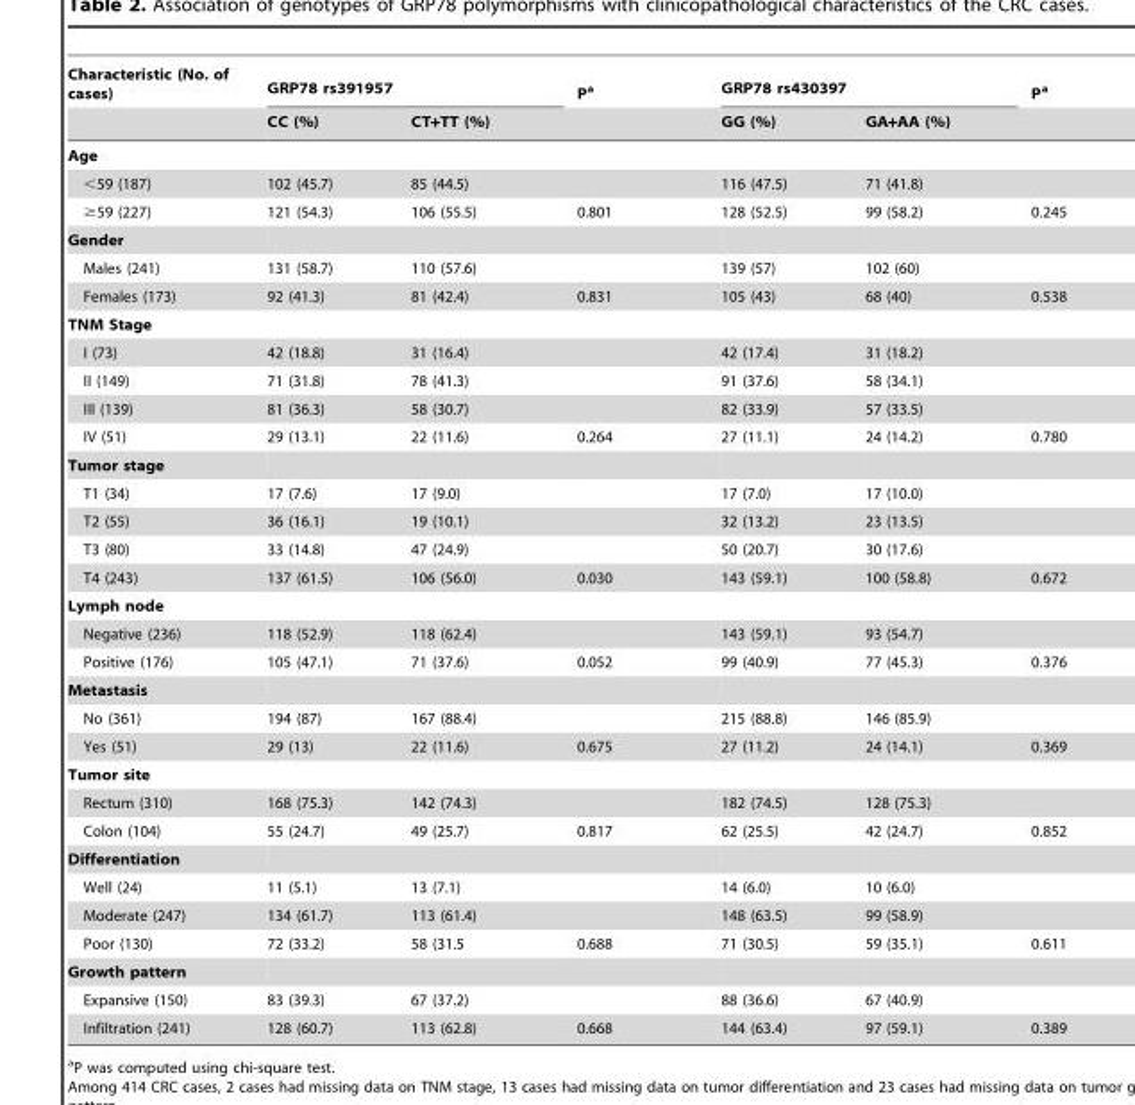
<table><thead><tr><td rowspan="2">Characteristic (No. of cases)</td><td colspan="2">GRP78 rs391957</td><td rowspan="2">P<sup>a</sup></td><td colspan="2">GRP78 rs430397</td><td rowspan="2">P<sup>a</sup></td></tr><tr><td>CC (%)</td><td>CT+TT (%)</td><td>GG (%)</td><td>GA+AA (%)</td></tr></thead><tbody><tr><td colspan="7">Age</td></tr><tr><td>&lt;59 (187)</td><td>102 (45.7)</td><td>85 (44.5)</td><td></td><td>116 (47.5)</td><td>71 (41.8)</td><td></td></tr><tr><td>≥59 (227)</td><td>121 (54.3)</td><td>106 (55.5)</td><td>0.801</td><td>128 (52.5)</td><td>99 (58.2)</td><td>0.245</td></tr><tr><td colspan="7">Gender</td></tr><tr><td>Males (241)</td><td>131 (58.7)</td><td>110 (57.6)</td><td></td><td>139 (57)</td><td>102 (60)</td><td></td></tr><tr><td>Females (173)</td><td>92 (41.3)</td><td>81 (42.4)</td><td>0.831</td><td>105 (43)</td><td>68 (40)</td><td>0.538</td></tr><tr><td colspan="7">TNM Stage</td></tr><tr><td>I (73)</td><td>42 (18.8)</td><td>31 (16.4)</td><td></td><td>42 (17.4)</td><td>31 (18.2)</td><td></td></tr><tr><td>II (149)</td><td>71 (31.8)</td><td>78 (41.3)</td><td></td><td>91 (37.6)</td><td>58 (34.1)</td><td></td></tr><tr><td>III (139)</td><td>81 (36.3)</td><td>58 (30.7)</td><td></td><td>82 (33.9)</td><td>57 (33.5)</td><td></td></tr><tr><td>IV (51)</td><td>29 (13.1)</td><td>22 (11.6)</td><td>0.264</td><td>27 (11.1)</td><td>24 (14.2)</td><td>0.780</td></tr><tr><td colspan="7">Tumor stage</td></tr><tr><td>T1 (34)</td><td>17 (7.6)</td><td>17 (9.0)</td><td></td><td>17 (7.0)</td><td>17 (10.0)</td><td></td></tr><tr><td>T2 (55)</td><td>36 (16.1)</td><td>19 (10.1)</td><td></td><td>32 (13.2)</td><td>23 (13.5)</td><td></td></tr><tr><td>T3 (80)</td><td>33 (14.8)</td><td>47 (24.9)</td><td></td><td>50 (20.7)</td><td>30 (17.6)</td><td></td></tr><tr><td>T4 (243)</td><td>137 (61.5)</td><td>106 (56.0)</td><td>0.030</td><td>143 (59.1)</td><td>100 (58.8)</td><td>0.672</td></tr><tr><td colspan="7">Lymph node</td></tr><tr><td>Negative (236)</td><td>118 (52.9)</td><td>118 (62.4)</td><td></td><td>143 (59.1)</td><td>93 (54.7)</td><td></td></tr><tr><td>Positive (176)</td><td>105 (47.1)</td><td>71 (37.6)</td><td>0.052</td><td>99 (40.9)</td><td>77 (45.3)</td><td>0.376</td></tr><tr><td colspan="7">Metastasis</td></tr><tr><td>No (361)</td><td>194 (87)</td><td>167 (88.4)</td><td></td><td>215 (88.8)</td><td>146 (85.9)</td><td></td></tr><tr><td>Yes (51)</td><td>29 (13)</td><td>22 (11.6)</td><td>0.675</td><td>27 (11.2)</td><td>24 (14.1)</td><td>0.369</td></tr><tr><td colspan="7">Tumor site</td></tr><tr><td>Rectum (310)</td><td>168 (75.3)</td><td>142 (74.3)</td><td></td><td>182 (74.5)</td><td>128 (75.3)</td><td></td></tr><tr><td>Colon (104)</td><td>55 (24.7)</td><td>49 (25.7)</td><td>0.817</td><td>62 (25.5)</td><td>42 (24.7)</td><td>0.852</td></tr><tr><td colspan="7">Differentiation</td></tr><tr><td>Well (24)</td><td>11 (5.1)</td><td>13 (7.1)</td><td></td><td>14 (6.0)</td><td>10 (6.0)</td><td></td></tr><tr><td>Moderate (247)</td><td>134 (61.7)</td><td>113 (61.4)</td><td></td><td>148 (63.5)</td><td>99 (58.9)</td><td></td></tr><tr><td>Poor (130)</td><td>72 (33.2)</td><td>58 (31.5</td><td>0.688</td><td>71 (30.5)</td><td>59 (35.1)</td><td>0.611</td></tr><tr><td colspan="7">Growth pattern</td></tr><tr><td>Expansive (150)</td><td>83 (39.3)</td><td>67 (37.2)</td><td></td><td>88 (36.6)</td><td>67 (40.9)</td><td></td></tr><tr><td>Infiltration (241)</td><td>128 (60.7)</td><td>113 (62.8)</td><td>0.668</td><td>144 (63.4)</td><td>97 (59.1)</td><td>0.389</td></tr></tbody></table>